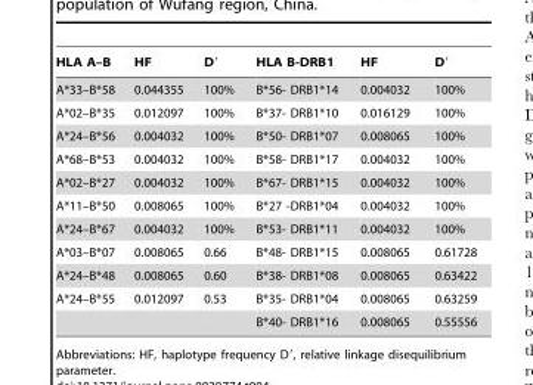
<table><thead><tr><td>HLA A–B</td><td>HF</td><td>D′</td><td>HLA B-DRB1</td><td>HF</td><td>D′</td></tr></thead><tbody><tr><td>A*33–B*58</td><td>0.044355</td><td>100%</td><td>B*56- DRB1*14</td><td>0.004032</td><td>100%</td></tr><tr><td>A*02–B*35</td><td>0.012097</td><td>100%</td><td>B*37- DRB1*10</td><td>0.016129</td><td>100%</td></tr><tr><td>A*24–B*56</td><td>0.004032</td><td>100%</td><td>B*50- DRB1*07</td><td>0.008065</td><td>100%</td></tr><tr><td>A*68–B*53</td><td>0.004032</td><td>100%</td><td>B*58- DRB1*17</td><td>0.004032</td><td>100%</td></tr><tr><td>A*02–B*27</td><td>0.004032</td><td>100%</td><td>B*67- DRB1*15</td><td>0.004032</td><td>100%</td></tr><tr><td>A*11–B*50</td><td>0.008065</td><td>100%</td><td>B*27 -DRB1*04</td><td>0.004032</td><td>100%</td></tr><tr><td>A*24–B*67</td><td>0.004032</td><td>100%</td><td>B*53- DRB1*11</td><td>0.004032</td><td>100%</td></tr><tr><td>A*03–B*07</td><td>0.008065</td><td>0.66</td><td>B*48- DRB1*15</td><td>0.008065</td><td>0.61728</td></tr><tr><td>A*24–B*48</td><td>0.008065</td><td>0.60</td><td>B*38- DRB1*08</td><td>0.008065</td><td>0.63422</td></tr><tr><td rowspan="2">A*24–B*55</td><td>0.012097</td><td>0.53</td><td>B*35- DRB1*04</td><td>0.008065</td><td>0.63259</td></tr><tr><td></td><td></td><td>B*40- DRB1*16</td><td>0.008065</td><td>0.55556</td></tr></tbody></table>